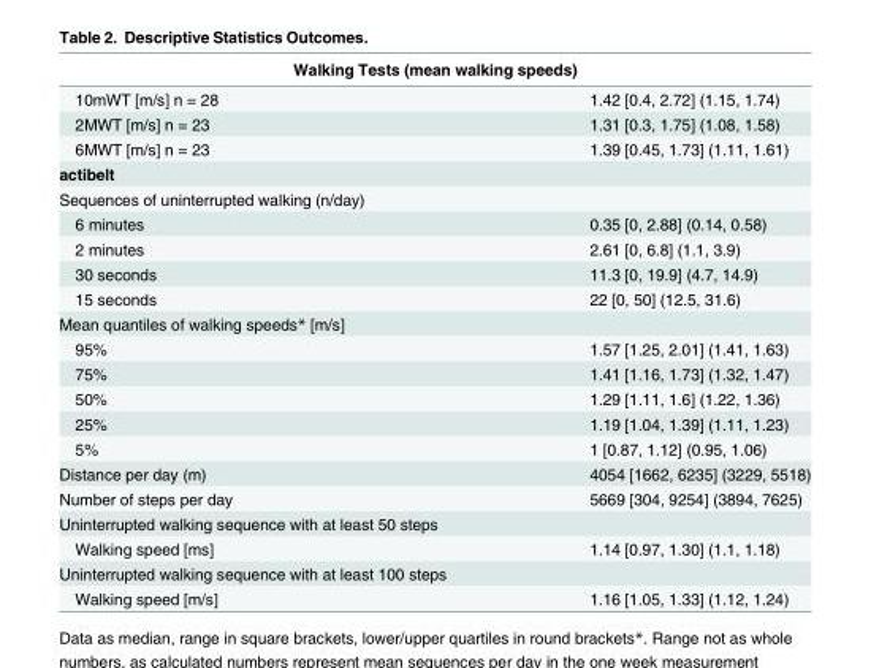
<table><thead><tr><td colspan="2">Walking Tests (mean walking speeds)</td></tr><tr><td>10mWT [m/s] n = 28</td><td>1.42 [0.4, 2.72] (1.15, 1.74)</td></tr></thead><tbody><tr><td>2MWT [m/s] n = 23</td><td>1.31 [0.3, 1.75] (1.08, 1.58)</td></tr><tr><td>6MWT [m/s] n = 23</td><td>1.39 [0.45, 1.73] (1.11, 1.61)</td></tr><tr><td colspan="2">actibelt</td></tr><tr><td colspan="2">Sequences of uninterrupted walking (n/day)</td></tr><tr><td>6 minutes</td><td>0.35 [0, 2.88] (0.14, 0.58)</td></tr><tr><td>2 minutes</td><td>2.61 [0, 6.8] (1.1, 3.9)</td></tr><tr><td>30 seconds</td><td>11.3 [0, 19.9] (4.7, 14.9)</td></tr><tr><td>15 seconds</td><td>22 [0, 50] (12.5, 31.6)</td></tr><tr><td colspan="2">Mean quantiles of walking speeds* [m/s]</td></tr><tr><td>95%</td><td>1.57 [1.25, 2.01] (1.41, 1.63)</td></tr><tr><td>75%</td><td>1.41 [1.16, 1.73] (1.32, 1.47)</td></tr><tr><td>50%</td><td>1.29 [1.11, 1.6] (1.22, 1.36)</td></tr><tr><td>25%</td><td>1.19 [1.04, 1.39] (1.11, 1.23)</td></tr><tr><td>5%</td><td>1 [0.87, 1.12] (0.95, 1.06)</td></tr><tr><td>Distance per day (m)</td><td>4054 [1662, 6235] (3229, 5518)</td></tr><tr><td>Number of steps per day</td><td>5669 [304, 9254] (3894, 7625)</td></tr><tr><td colspan="2">Uninterrupted walking sequence with at least 50 steps</td></tr><tr><td>Walking speed [ms]</td><td>1.14 [0.97, 1.30] (1.1, 1.18)</td></tr><tr><td colspan="2">Uninterrupted walking sequence with at least 100 steps</td></tr><tr><td>Walking speed [m/s]</td><td>1.16 [1.05, 1.33] (1.12, 1.24)</td></tr></tbody></table>